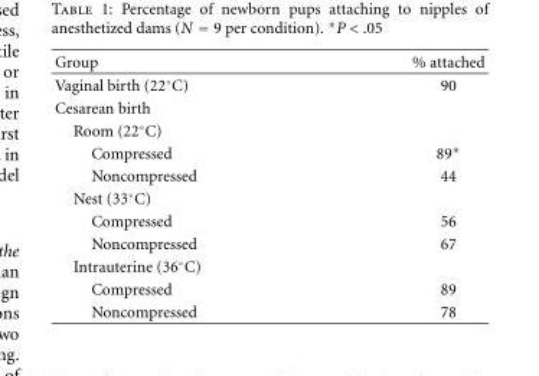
<table><thead><tr><td>Group</td><td>% attached</td></tr></thead><tbody><tr><td>Vaginal birth (22◦C)</td><td>90</td></tr><tr><td colspan="2">Cesarean birth</td></tr><tr><td colspan="2">Room (22◦C)</td></tr><tr><td>Compressed</td><td>89∗</td></tr><tr><td>Noncompressed</td><td>44</td></tr><tr><td colspan="2">Nest (33◦C)</td></tr><tr><td>Compressed</td><td>56</td></tr><tr><td>Noncompressed</td><td>67</td></tr><tr><td colspan="2">Intrauterine (36◦C)</td></tr><tr><td>Compressed</td><td>89</td></tr><tr><td>Noncompressed</td><td>78</td></tr></tbody></table>